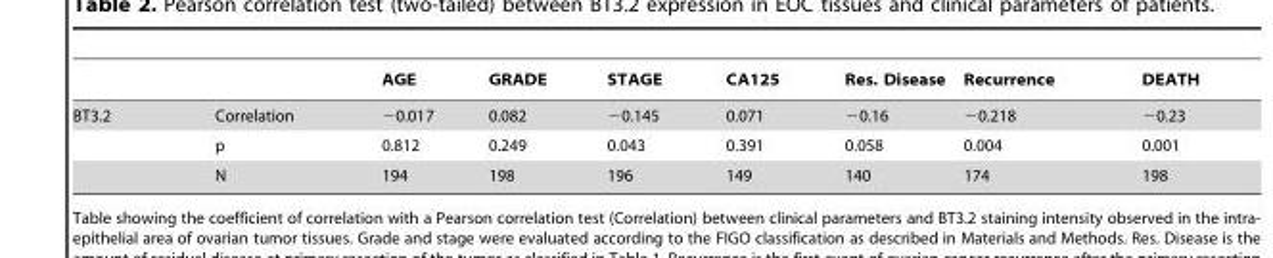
<table><thead><tr><td></td><td></td><td>AGE</td><td>GRADE</td><td>STAGE</td><td>CA125</td><td>Res. Disease</td><td>Recurrence</td><td>DEATH</td></tr></thead><tbody><tr><td rowspan="3">BT3.2</td><td>Correlation</td><td>−0.017</td><td>0.082</td><td>−0.145</td><td>0.071</td><td>−0.16</td><td>−0.218</td><td>−0.23</td></tr><tr><td>p</td><td>0.812</td><td>0.249</td><td>0.043</td><td>0.391</td><td>0.058</td><td>0.004</td><td>0.001</td></tr><tr><td>N</td><td>194</td><td>198</td><td>196</td><td>149</td><td>140</td><td>174</td><td>198</td></tr></tbody></table>